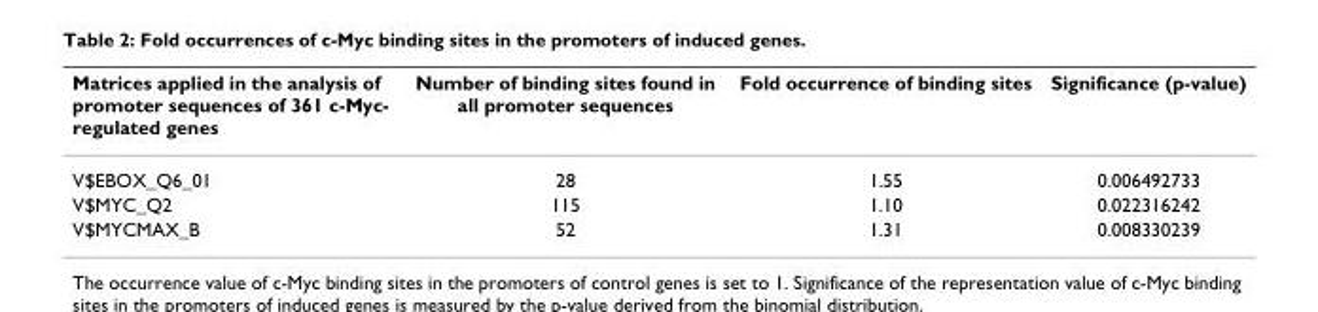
<table><thead><tr><td>Matrices applied in the analysis of promoter sequences of 361 c-Myc- regulated genes</td><td>Number of binding sites found in all promoter sequences</td><td>Fold occurrence of binding sites</td><td>Significance (p-value)</td></tr></thead><tbody><tr><td>V$EBOX_Q6_01</td><td>28</td><td>1.55</td><td>0.006492733</td></tr><tr><td>V$MYC_Q2</td><td>115</td><td>1.10</td><td>0.022316242</td></tr><tr><td>V$MYCMAX_B</td><td>52</td><td>1.31</td><td>0.008330239</td></tr></tbody></table>